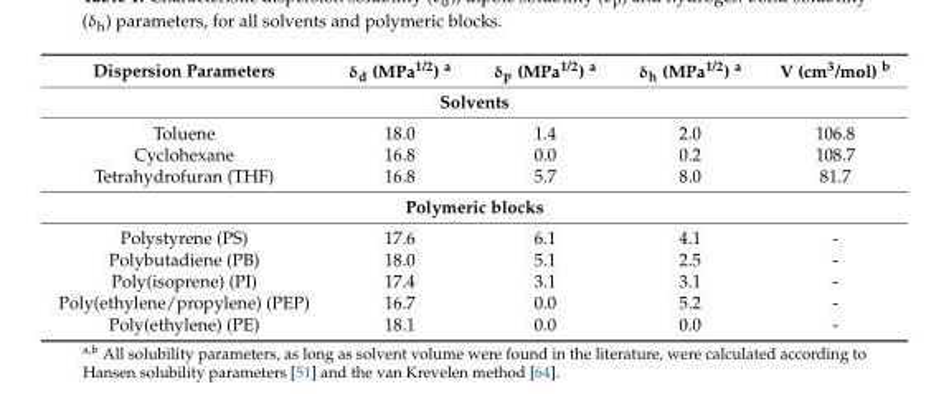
<table><thead><tr><td>Dispersion Parameters</td><td>δ<sub>d</sub> (MPa<sup>1/2</sup>) <sup>a</sup></td><td>δ<sub>p</sub> (MPa<sup>1/2</sup>) <sup>a</sup></td><td>δ<sub>h</sub> (MPa<sup>1/2</sup>) <sup>a</sup></td><td>V (cm<sup>3</sup>/mol) <sup>b</sup></td></tr></thead><tbody><tr><td colspan="5">Solvents</td></tr><tr><td>Toluene</td><td>18.0</td><td>1.4</td><td>2.0</td><td>106.8</td></tr><tr><td>Cyclohexane</td><td>16.8</td><td>0.0</td><td>0.2</td><td>108.7</td></tr><tr><td>Tetrahydrofuran (THF)</td><td>16.8</td><td>5.7</td><td>8.0</td><td>81.7</td></tr><tr><td colspan="5">Polymeric blocks</td></tr><tr><td>Polystyrene (PS)</td><td>17.6</td><td>6.1</td><td>4.1</td><td>-</td></tr><tr><td>Polybutadiene (PB)</td><td>18.0</td><td>5.1</td><td>2.5</td><td>-</td></tr><tr><td>Poly(isoprene) (PI)</td><td>17.4</td><td>3.1</td><td>3.1</td><td>-</td></tr><tr><td>Poly(ethylene/propylene) (PEP)</td><td>16.7</td><td>0.0</td><td>5.2</td><td>-</td></tr><tr><td>Poly(ethylene) (PE)</td><td>18.1</td><td>0.0</td><td>0.0</td><td>-</td></tr></tbody></table>